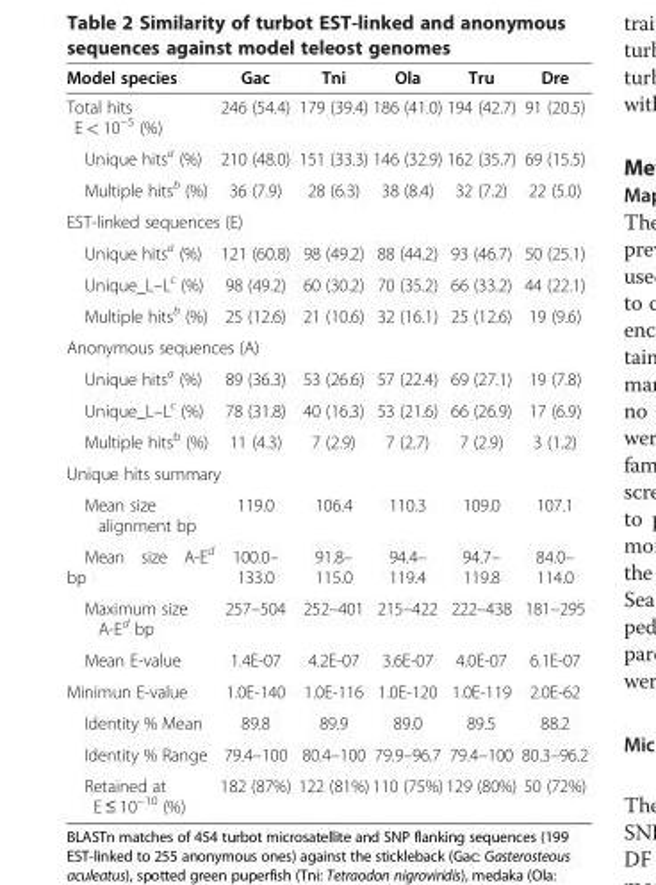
<table><thead><tr><td>Model species</td><td>Gac</td><td>Tni</td><td>Ola</td><td>Tru</td><td>Dre</td></tr></thead><tbody><tr><td>Total hits E &lt; 10<sup>−5</sup> (%)</td><td>246 (54.4)</td><td>179 (39.4)</td><td>186 (41.0)</td><td>194 (42.7)</td><td>91 (20.5)</td></tr><tr><td>Unique hits<sup>a</sup> (%)</td><td>210 (48.0)</td><td>151 (33.3)</td><td>146 (32.9)</td><td>162 (35.7)</td><td>69 (15.5)</td></tr><tr><td>Multiple hits<sup>b</sup> (%)</td><td>36 (7.9)</td><td>28 (6.3)</td><td>38 (8.4)</td><td>32 (7.2)</td><td>22 (5.0)</td></tr><tr><td colspan="6">EST-linked sequences (E)</td></tr><tr><td>Unique hits<sup>a</sup> (%)</td><td>121 (60.8)</td><td>98 (49.2)</td><td>88 (44.2)</td><td>93 (46.7)</td><td>50 (25.1)</td></tr><tr><td>Unique_L–L<sup>c</sup> (%)</td><td>98 (49.2)</td><td>60 (30.2)</td><td>70 (35.2)</td><td>66 (33.2)</td><td>44 (22.1)</td></tr><tr><td>Multiple hits<sup>b</sup> (%)</td><td>25 (12.6)</td><td>21 (10.6)</td><td>32 (16.1)</td><td>25 (12.6)</td><td>19 (9.6)</td></tr><tr><td colspan="6">Anonymous sequences (A)</td></tr><tr><td>Unique hits<sup>a</sup> (%)</td><td>89 (36.3)</td><td>53 (26.6)</td><td>57 (22.4)</td><td>69 (27.1)</td><td>19 (7.8)</td></tr><tr><td>Unique_L–L<sup>c</sup> (%)</td><td>78 (31.8)</td><td>40 (16.3)</td><td>53 (21.6)</td><td>66 (26.9)</td><td>17 (6.9)</td></tr><tr><td>Multiple hits<sup>b</sup> (%)</td><td>11 (4.3)</td><td>7 (2.9)</td><td>7 (2.7)</td><td>7 (2.9)</td><td>3 (1.2)</td></tr><tr><td colspan="6">Unique hits summary</td></tr><tr><td>Mean size alignment bp</td><td>119.0</td><td>106.4</td><td>110.3</td><td>109.0</td><td>107.1</td></tr><tr><td>Mean size A-E<sup>d</sup> bp</td><td>100.0– 133.0</td><td>91.8– 115.0</td><td>94.4– 119.4</td><td>94.7– 119.8</td><td>84.0– 114.0</td></tr><tr><td>Maximum size A-E<sup>d</sup> bp</td><td>257–504</td><td>252–401</td><td>215–422</td><td>222–438</td><td>181–295</td></tr><tr><td>Mean E-value</td><td>1.4E-07</td><td>4.2E-07</td><td>3.6E-07</td><td>4.0E-07</td><td>6.1E-07</td></tr><tr><td>Minimun E-value</td><td>1.0E-140</td><td>1.0E-116</td><td>1.0E-120</td><td>1.0E-119</td><td>2.0E-62</td></tr><tr><td>Identity % Mean</td><td>89.8</td><td>89.9</td><td>89.0</td><td>89.5</td><td>88.2</td></tr><tr><td>Identity % Range</td><td>79.4–100</td><td>80.4–100</td><td>79.9–96.7</td><td>79.4–100</td><td>80.3–96.2</td></tr><tr><td>Retained at E ≤ 10<sup>−10</sup> (%)</td><td>182 (87%)</td><td>122 (81%)</td><td>110 (75%)</td><td>129 (80%)</td><td>50 (72%)</td></tr></tbody></table>